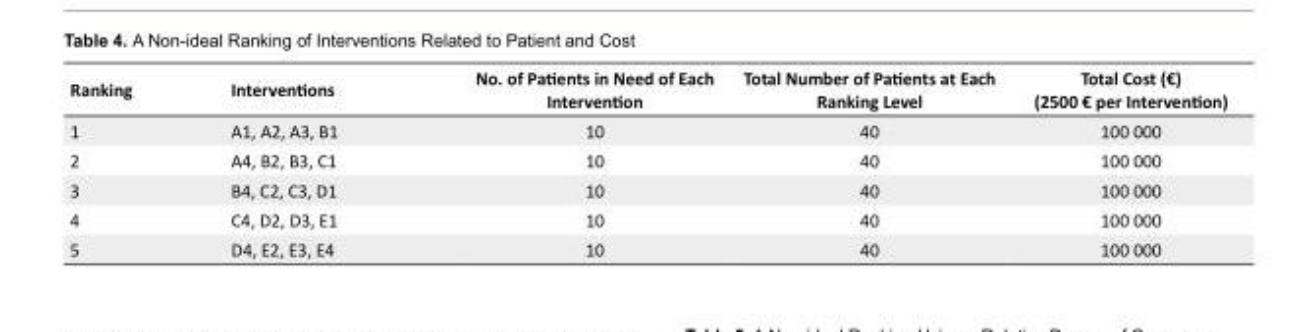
<table><tbody><tr><td>Ranking</td><td>Interventions</td><td>No. of Patients in Need of Each Intervention</td><td>Total Number of Patients at Each Ranking Level</td><td>Total Cost (€) (2500 € per Intervention)</td></tr><tr><td>1</td><td>A1, A2, A3, B1</td><td>10</td><td>40</td><td>100 000</td></tr><tr><td>2</td><td>A4, B2, B3, C1</td><td>10</td><td>40</td><td>100 000</td></tr><tr><td>3</td><td>B4, C2, C3, D1</td><td>10</td><td>40</td><td>100 000</td></tr><tr><td>4</td><td>C4, D2, D3, E1</td><td>10</td><td>40</td><td>100 000</td></tr><tr><td>5</td><td>D4, E2, E3, E4</td><td>10</td><td>40</td><td>100 000</td></tr></tbody></table>